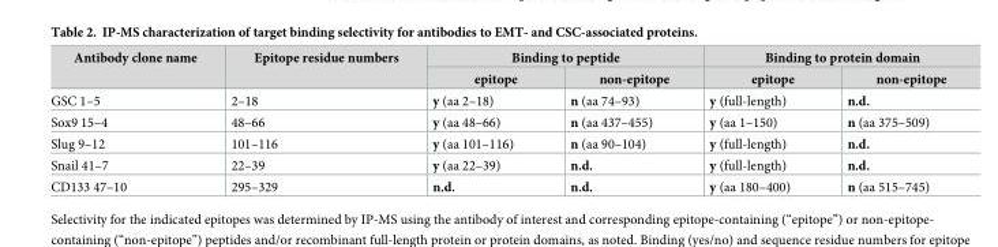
<table><thead><tr><td rowspan="2">Antibody clone name</td><td rowspan="2">Epitope residue numbers</td><td colspan="2">Binding to peptide</td><td colspan="2">Binding to protein domain</td></tr><tr><td>epitope</td><td>non-epitope</td><td>epitope</td><td>non-epitope</td></tr></thead><tbody><tr><td>GSC 1–5</td><td>2–18</td><td>y (aa 2–18)</td><td>n (aa 74–93)</td><td>y (full-length)</td><td>n.d.</td></tr><tr><td>Sox9 15–4</td><td>48–66</td><td>y (aa 48–66)</td><td>n (aa 437–455)</td><td>y (aa 1–150)</td><td>n (aa 375–509)</td></tr><tr><td>Slug 9–12</td><td>101–116</td><td>y (aa 101–116)</td><td>n (aa 90–104)</td><td>y (full-length)</td><td>n.d.</td></tr><tr><td>Snail 41–7</td><td>22–39</td><td>y (aa 22–39)</td><td>n.d.</td><td>y (full-length)</td><td>n.d.</td></tr><tr><td>CD133 47–10</td><td>295–329</td><td>n.d.</td><td>n.d.</td><td>y (aa 180–400)</td><td>n (aa 515–745)</td></tr></tbody></table>